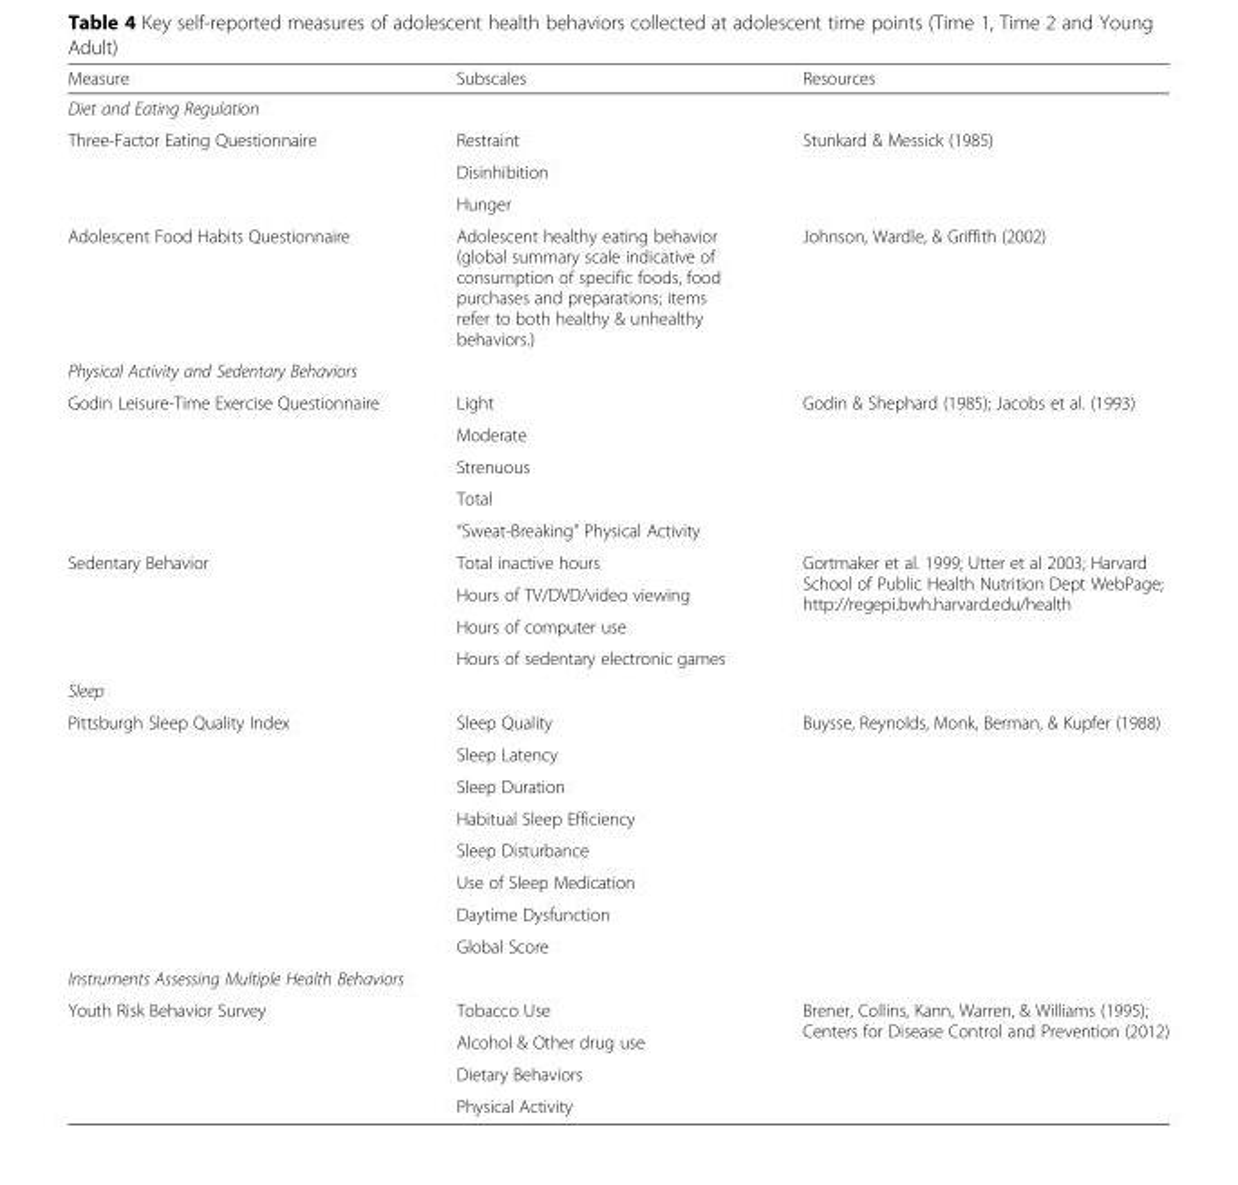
<table><thead><tr><td>Measure</td><td>Subscales</td><td>Resources</td></tr></thead><tbody><tr><td colspan="3">Diet and Eating Regulation</td></tr><tr><td rowspan="3">Three-Factor Eating Questionnaire</td><td>Restraint</td><td rowspan="3">Stunkard &amp; Messick (1985)</td></tr><tr><td>Disinhibition</td></tr><tr><td>Hunger</td></tr><tr><td>Adolescent Food Habits Questionnaire</td><td>Adolescent healthy eating behavior (global summary scale indicative of consumption of specific foods, food purchases and preparations; items refer to both healthy &amp; unhealthy behaviors.)</td><td>Johnson, Wardle, &amp; Griffith (2002)</td></tr><tr><td colspan="3">Physical Activity and Sedentary Behaviors</td></tr><tr><td rowspan="5">Godin Leisure-Time Exercise Questionnaire</td><td>Light</td><td rowspan="5">Godin &amp; Shephard (1985); Jacobs et al. (1993)</td></tr><tr><td>Moderate</td></tr><tr><td>Strenuous</td></tr><tr><td>Total</td></tr><tr><td>“Sweat-Breaking” Physical Activity</td></tr><tr><td rowspan="4">Sedentary Behavior</td><td>Total inactive hours</td><td rowspan="4">Gortmaker et al. 1999; Utter et al 2003; Harvard School of Public Health Nutrition Dept WebPage; http://regepi.bwh.harvard.edu/health</td></tr><tr><td>Hours of TV/DVD/video viewing</td></tr><tr><td>Hours of computer use</td></tr><tr><td>Hours of sedentary electronic games</td></tr><tr><td colspan="3">Sleep</td></tr><tr><td rowspan="8">Pittsburgh Sleep Quality Index</td><td>Sleep Quality</td><td rowspan="8">Buysse, Reynolds, Monk, Berman, &amp; Kupfer (1988)</td></tr><tr><td>Sleep Latency</td></tr><tr><td>Sleep Duration</td></tr><tr><td>Habitual Sleep Efficiency</td></tr><tr><td>Sleep Disturbance</td></tr><tr><td>Use of Sleep Medication</td></tr><tr><td>Daytime Dysfunction</td></tr><tr><td>Global Score</td></tr><tr><td colspan="3">Instruments Assessing Multiple Health Behaviors</td></tr><tr><td rowspan="4">Youth Risk Behavior Survey</td><td>Tobacco Use</td><td rowspan="4">Brener, Collins, Kann, Warren, &amp; Williams (1995); Centers for Disease Control and Prevention (2012)</td></tr><tr><td>Alcohol &amp; Other drug use</td></tr><tr><td>Dietary Behaviors</td></tr><tr><td>Physical Activity</td></tr></tbody></table>